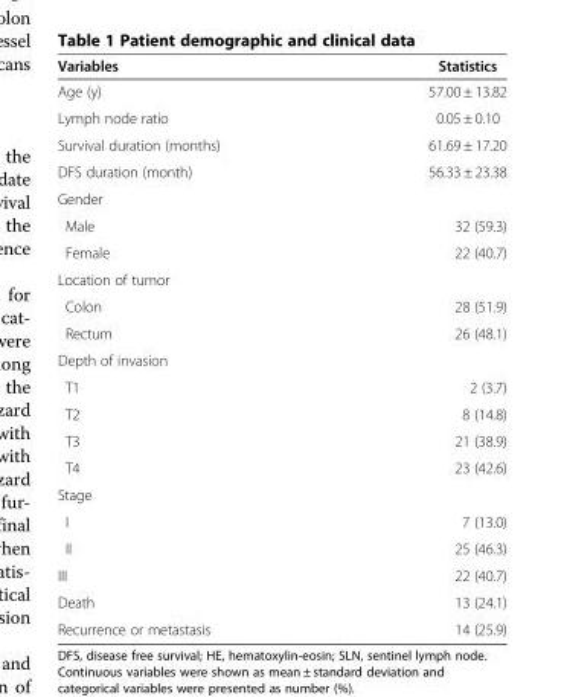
<table><thead><tr><td>Variables</td><td>Statistics</td></tr></thead><tbody><tr><td>Age (y)</td><td>57.00 ± 13.82</td></tr><tr><td>Lymph node ratio</td><td>0.05 ± 0.10</td></tr><tr><td>Survival duration (months)</td><td>61.69 ± 17.20</td></tr><tr><td>DFS duration (month)</td><td>56.33 ± 23.38</td></tr><tr><td colspan="2">Gender</td></tr><tr><td>Male</td><td>32 (59.3)</td></tr><tr><td>Female</td><td>22 (40.7)</td></tr><tr><td colspan="2">Location of tumor</td></tr><tr><td>Colon</td><td>28 (51.9)</td></tr><tr><td>Rectum</td><td>26 (48.1)</td></tr><tr><td colspan="2">Depth of invasion</td></tr><tr><td>T1</td><td>2 (3.7)</td></tr><tr><td>T2</td><td>8 (14.8)</td></tr><tr><td>T3</td><td>21 (38.9)</td></tr><tr><td>T4</td><td>23 (42.6)</td></tr><tr><td colspan="2">Stage</td></tr><tr><td>I</td><td>7 (13.0)</td></tr><tr><td>II</td><td>25 (46.3)</td></tr><tr><td>III</td><td>22 (40.7)</td></tr><tr><td>Death</td><td>13 (24.1)</td></tr><tr><td>Recurrence or metastasis</td><td>14 (25.9)</td></tr></tbody></table>